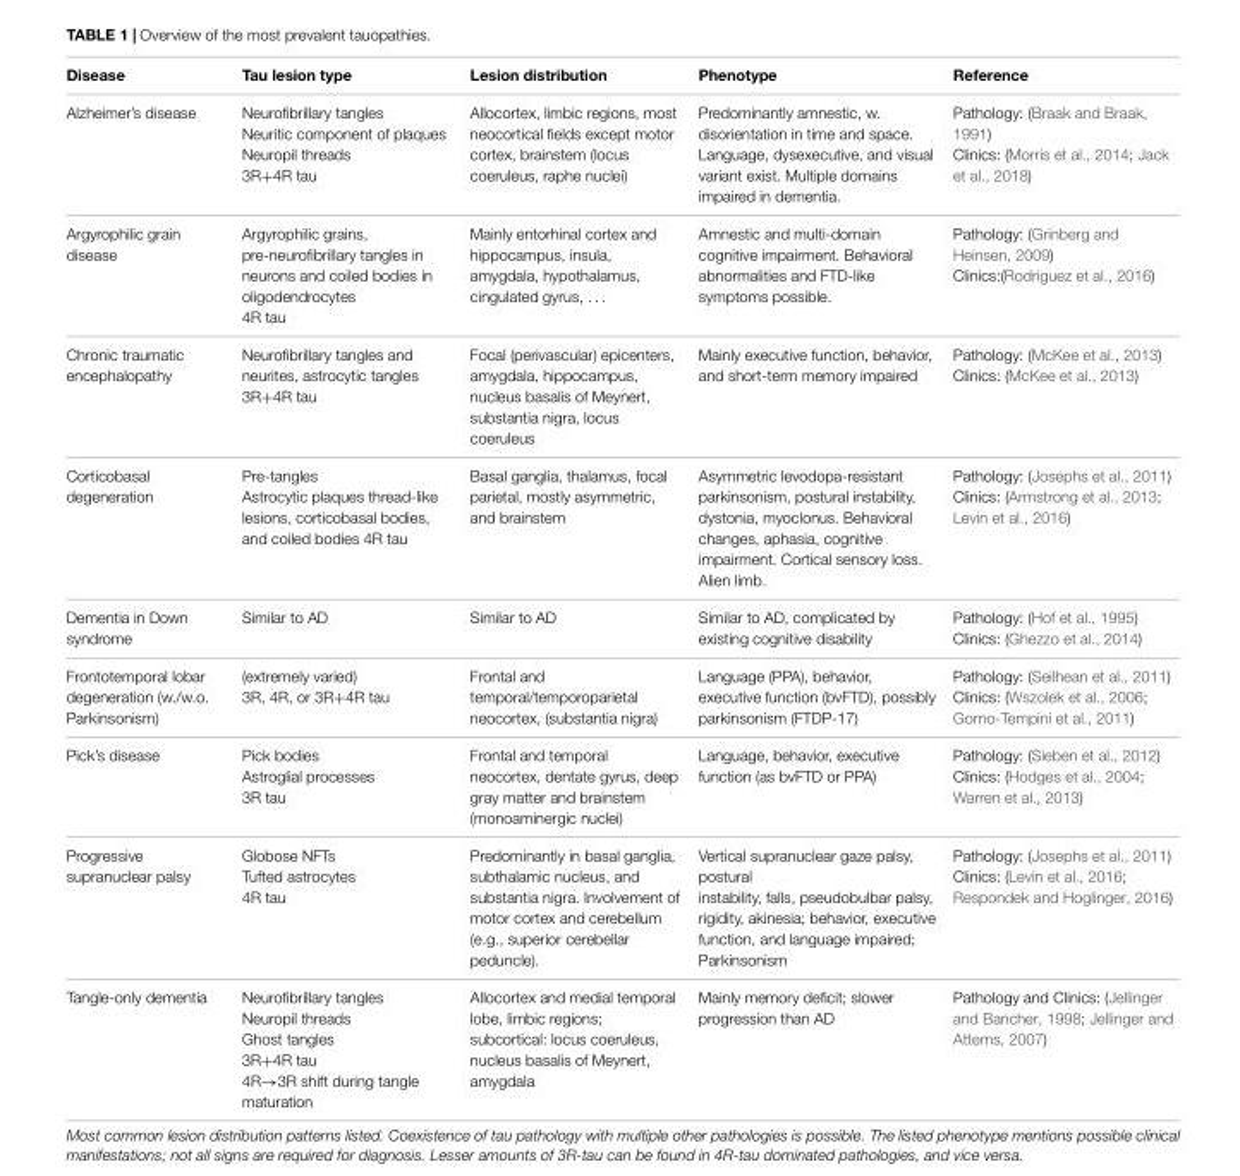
<table><thead><tr><td>Disease</td><td>Tau lesion type</td><td>Lesion distribution</td><td>Phenotype</td><td>Reference</td></tr></thead><tbody><tr><td>Alzheimer’s disease</td><td>Neurofibrillary tangles Neuritic component of plaques Neuropil threads 3R+4R tau</td><td>Allocortex, limbic regions, most neocortical fields except motor cortex, brainstem (locus coeruleus, raphe nuclei)</td><td>Predominantly amnestic, w. disorientation in time and space. Language, dysexecutive, and visual variant exist. Multiple domains impaired in dementia.</td><td>Pathology: (Braak and Braak, 1991) Clinics: (Morris et al., 2014; Jack et al., 2018)</td></tr><tr><td>Argyrophilic grain disease</td><td>Argyrophilic grains, pre-neurofibrillary tangles in neurons and coiled bodies in oligodendrocytes 4R tau</td><td>Mainly entorhinal cortex and hippocampus, insula, amygdala, hypothalamus, cingulated gyrus, . . .</td><td>Amnestic and multi-domain cognitive impairment. Behavioral abnormalities and FTD-like symptoms possible.</td><td>Pathology: (Grinberg and Heinsen, 2009) Clinics:(Rodriguez et al., 2016)</td></tr><tr><td>Chronic traumatic encephalopathy</td><td>Neurofibrillary tangles and neurites, astrocytic tangles 3R+4R tau</td><td>Focal (perivascular) epicenters, amygdala, hippocampus, nucleus basalis of Meynert, substantia nigra, locus coeruleus</td><td>Mainly executive function, behavior, and short-term memory impaired</td><td>Pathology: (McKee et al., 2013) Clinics: (McKee et al., 2013)</td></tr><tr><td>Corticobasal degeneration</td><td>Pre-tangles Astrocytic plaques thread-like lesions, corticobasal bodies, and coiled bodies 4R tau</td><td>Basal ganglia, thalamus, focal parietal, mostly asymmetric, and brainstem</td><td>Asymmetric levodopa-resistant parkinsonism, postural instability, dystonia, myoclonus. Behavioral changes, aphasia, cognitive impairment. Cortical sensory loss. Alien limb.</td><td>Pathology: (Josephs et al., 2011) Clinics: (Armstrong et al., 2013; Levin et al., 2016)</td></tr><tr><td>Dementia in Down syndrome</td><td>Similar to AD</td><td>Similar to AD</td><td>Similar to AD, complicated by existing cognitive disability</td><td>Pathology: (Hof et al., 1995) Clinics: (Ghezzo et al., 2014)</td></tr><tr><td>Frontotemporal lobar degeneration (w./w.o. Parkinsonism)</td><td>(extremely varied) 3R, 4R, or 3R+4R tau</td><td>Frontal and temporal/temporoparietal neocortex, (substantia nigra)</td><td>Language (PPA), behavior, executive function (bvFTD), possibly parkinsonism (FTDP-17)</td><td>Pathology: (Seilhean et al., 2011) Clinics: (Wszolek et al., 2006; Gorno-Tempini et al., 2011)</td></tr><tr><td>Pick’s disease</td><td>Pick bodies Astroglial processes 3R tau</td><td>Frontal and temporal neocortex, dentate gyrus, deep gray matter and brainstem (monoaminergic nuclei)</td><td>Language, behavior, executive function (as bvFTD or PPA)</td><td>Pathology: (Sieben et al., 2012) Clinics: (Hodges et al., 2004; Warren et al., 2013)</td></tr><tr><td>Progressive supranuclear palsy</td><td>Globose NFTs Tufted astrocytes 4R tau</td><td>Predominantly in basal ganglia, subthalamic nucleus, and substantia nigra. Involvement of motor cortex and cerebellum (e.g., superior cerebellar peduncle).</td><td>Vertical supranuclear gaze palsy, postural instability, falls, pseudobulbar palsy, rigidity, akinesia; behavior, executive function, and language impaired; Parkinsonism</td><td>Pathology: (Josephs et al., 2011) Clinics: (Levin et al., 2016; Respondek and Hoglinger, 2016)</td></tr><tr><td>Tangle-only dementia</td><td>Neurofibrillary tangles Neuropil threads Ghost tangles 3R+4R tau 4R→3R shift during tangle maturation</td><td>Allocortex and medial temporal lobe, limbic regions; subcortical: locus coeruleus, nucleus basalis of Meynert, amygdala</td><td>Mainly memory deficit; slower progression than AD</td><td>Pathology and Clinics: (Jellinger and Bancher, 1998; Jellinger and Attems, 2007)</td></tr></tbody></table>